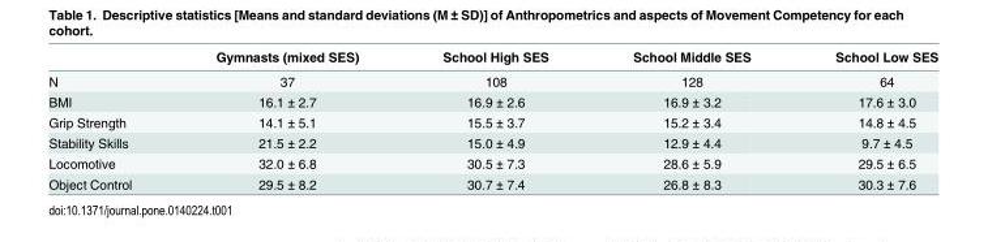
<table><thead><tr><td></td><td>Gymnasts (mixed SES)</td><td>School High SES</td><td>School Middle SES</td><td>School Low SES</td></tr></thead><tbody><tr><td>N</td><td>37</td><td>108</td><td>128</td><td>64</td></tr><tr><td>BMI</td><td>16.1 ± 2.7</td><td>16.9 ± 2.6</td><td>16.9 ± 3.2</td><td>17.6 ± 3.0</td></tr><tr><td>Grip Strength</td><td>14.1 ± 5.1</td><td>15.5 ± 3.7</td><td>15.2 ± 3.4</td><td>14.8 ± 4.5</td></tr><tr><td>Stability Skills</td><td>21.5 ± 2.2</td><td>15.0 ± 4.9</td><td>12.9 ± 4.4</td><td>9.7 ± 4.5</td></tr><tr><td>Locomotive</td><td>32.0 ± 6.8</td><td>30.5 ± 7.3</td><td>28.6 ± 5.9</td><td>29.5 ± 6.5</td></tr><tr><td>Object Control</td><td>29.5 ± 8.2</td><td>30.7 ± 7.4</td><td>26.8 ± 8.3</td><td>30.3 ± 7.6</td></tr></tbody></table>